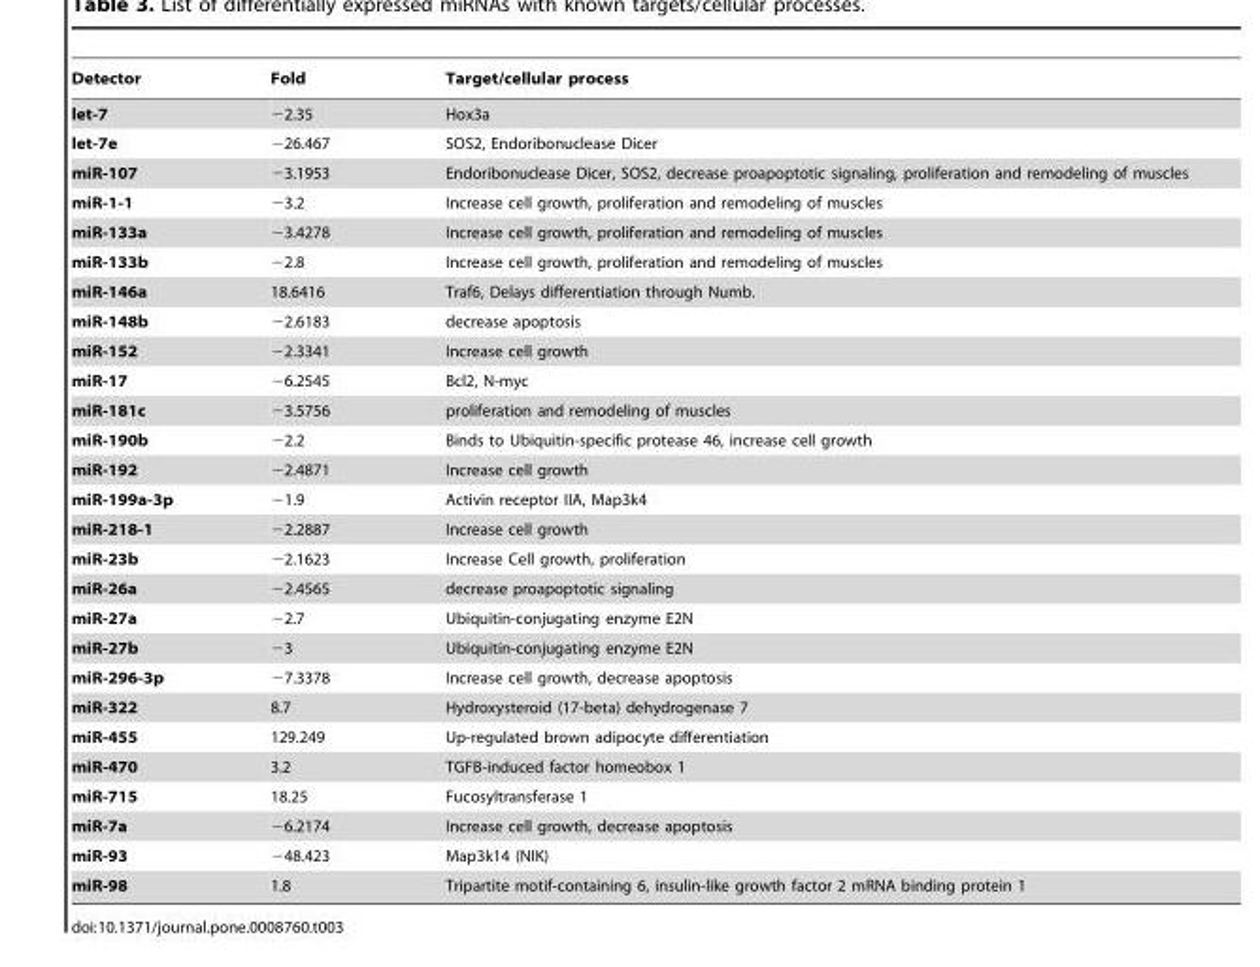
<table><thead><tr><td>Detector</td><td>Fold</td><td>Target/cellular process</td></tr></thead><tbody><tr><td>let-7</td><td>−2.35</td><td>Hox3a</td></tr><tr><td>let-7e</td><td>−26.467</td><td>SOS2, Endoribonuclease Dicer</td></tr><tr><td>miR-107</td><td>−3.1953</td><td>Endoribonuclease Dicer, SOS2, decrease proapoptotic signaling, proliferation and remodeling of muscles</td></tr><tr><td>miR-1-1</td><td>−3.2</td><td>Increase cell growth, proliferation and remodeling of muscles</td></tr><tr><td>miR-133a</td><td>−3.4278</td><td>Increase cell growth, proliferation and remodeling of muscles</td></tr><tr><td>miR-133b</td><td>−2.8</td><td>Increase cell growth, proliferation and remodeling of muscles</td></tr><tr><td>miR-146a</td><td>18.6416</td><td>Traf6, Delays differentiation through Numb.</td></tr><tr><td>miR-148b</td><td>−2.6183</td><td>decrease apoptosis</td></tr><tr><td>miR-152</td><td>−2.3341</td><td>Increase cell growth</td></tr><tr><td>miR-17</td><td>−6.2545</td><td>Bcl2, N-myc</td></tr><tr><td>miR-181c</td><td>−3.5756</td><td>proliferation and remodeling of muscles</td></tr><tr><td>miR-190b</td><td>−2.2</td><td>Binds to Ubiquitin-specific protease 46, increase cell growth</td></tr><tr><td>miR-192</td><td>−2.4871</td><td>Increase cell growth</td></tr><tr><td>miR-199a-3p</td><td>−1.9</td><td>Activin receptor IIA, Map3k4</td></tr><tr><td>miR-218-1</td><td>−2.2887</td><td>Increase cell growth</td></tr><tr><td>miR-23b</td><td>−2.1623</td><td>Increase Cell growth, proliferation</td></tr><tr><td>miR-26a</td><td>−2.4565</td><td>decrease proapoptotic signaling</td></tr><tr><td>miR-27a</td><td>−2.7</td><td>Ubiquitin-conjugating enzyme E2N</td></tr><tr><td>miR-27b</td><td>−3</td><td>Ubiquitin-conjugating enzyme E2N</td></tr><tr><td>miR-296-3p</td><td>−7.3378</td><td>Increase cell growth, decrease apoptosis</td></tr><tr><td>miR-322</td><td>8.7</td><td>Hydroxysteroid (17-beta) dehydrogenase 7</td></tr><tr><td>miR-455</td><td>129.249</td><td>Up-regulated brown adipocyte differentiation</td></tr><tr><td>miR-470</td><td>3.2</td><td>TGFB-induced factor homeobox 1</td></tr><tr><td>miR-715</td><td>18.25</td><td>Fucosyltransferase 1</td></tr><tr><td>miR-7a</td><td>−6.2174</td><td>Increase cell growth, decrease apoptosis</td></tr><tr><td>miR-93</td><td>−48.423</td><td>Map3k14 (NIK)</td></tr><tr><td>miR-98</td><td>1.8</td><td>Tripartite motif-containing 6, insulin-like growth factor 2 mRNA binding protein 1</td></tr></tbody></table>